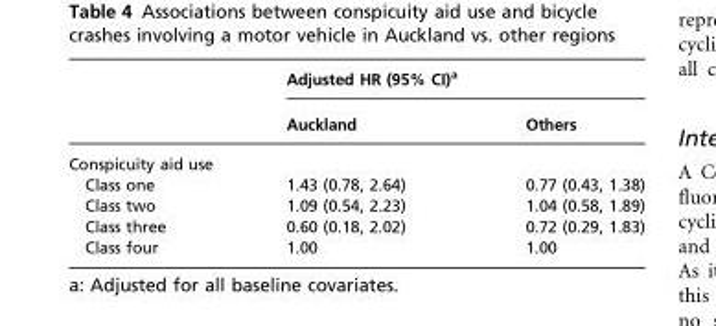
<table><thead><tr><td rowspan="2"></td><td colspan="2">Adjusted HR (95% CI)<sup>a</sup></td></tr><tr><td>Auckland</td><td>Others</td></tr></thead><tbody><tr><td colspan="3">Conspicuity aid use</td></tr><tr><td>Class one</td><td>1.43 (0.78, 2.64)</td><td>0.77 (0.43, 1.38)</td></tr><tr><td>Class two</td><td>1.09 (0.54, 2.23)</td><td>1.04 (0.58, 1.89)</td></tr><tr><td>Class three</td><td>0.60 (0.18, 2.02)</td><td>0.72 (0.29, 1.83)</td></tr><tr><td>Class four</td><td>1.00</td><td>1.00</td></tr></tbody></table>